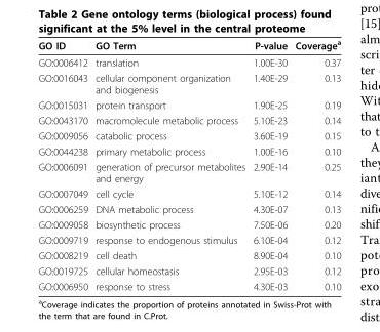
<table><thead><tr><td>GO ID</td><td>GO Term</td><td>P-value</td><td>Coverage<sup>a</sup></td></tr></thead><tbody><tr><td>GO:0006412</td><td>translation</td><td>1.00E-30</td><td>0.37</td></tr><tr><td>GO:0016043</td><td>cellular component organization and biogenesis</td><td>1.40E-29</td><td>0.13</td></tr><tr><td>GO:0015031</td><td>protein transport</td><td>1.90E-25</td><td>0.19</td></tr><tr><td>GO:0043170</td><td>macromolecule metabolic process</td><td>5.10E-23</td><td>0.14</td></tr><tr><td>GO:0009056</td><td>catabolic process</td><td>3.60E-19</td><td>0.15</td></tr><tr><td>GO:0044238</td><td>primary metabolic process</td><td>1.00E-16</td><td>0.10</td></tr><tr><td>GO:0006091</td><td>generation of precursor metabolites and energy</td><td>2.90E-14</td><td>0.25</td></tr><tr><td>GO:0007049</td><td>cell cycle</td><td>5.10E-12</td><td>0.14</td></tr><tr><td>GO:0006259</td><td>DNA metabolic process</td><td>4.30E-07</td><td>0.13</td></tr><tr><td>GO:0009058</td><td>biosynthetic process</td><td>7.50E-06</td><td>0.20</td></tr><tr><td>GO:0009719</td><td>response to endogenous stimulus</td><td>6.10E-04</td><td>0.12</td></tr><tr><td>GO:0008219</td><td>cell death</td><td>8.90E-04</td><td>0.10</td></tr><tr><td>GO:0019725</td><td>cellular homeostasis</td><td>2.95E-03</td><td>0.12</td></tr><tr><td>GO:0006950</td><td>response to stress</td><td>4.30E-03</td><td>0.10</td></tr></tbody></table>